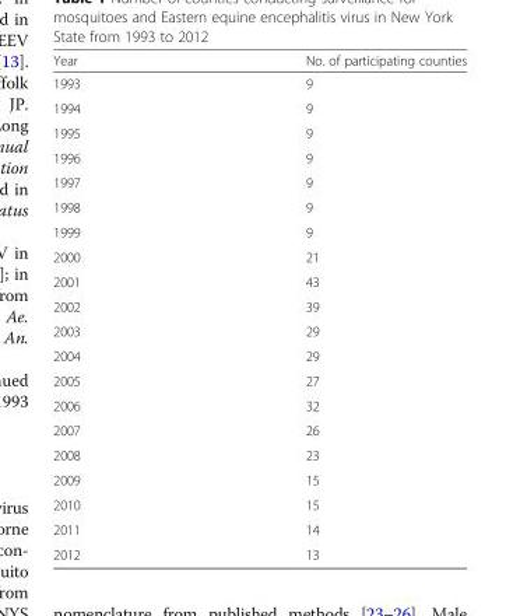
<table><thead><tr><td>Year</td><td>No. of participating counties</td></tr></thead><tbody><tr><td>1993</td><td>9</td></tr><tr><td>1994</td><td>9</td></tr><tr><td>1995</td><td>9</td></tr><tr><td>1996</td><td>9</td></tr><tr><td>1997</td><td>9</td></tr><tr><td>1998</td><td>9</td></tr><tr><td>1999</td><td>9</td></tr><tr><td>2000</td><td>21</td></tr><tr><td>2001</td><td>43</td></tr><tr><td>2002</td><td>39</td></tr><tr><td>2003</td><td>29</td></tr><tr><td>2004</td><td>29</td></tr><tr><td>2005</td><td>27</td></tr><tr><td>2006</td><td>32</td></tr><tr><td>2007</td><td>26</td></tr><tr><td>2008</td><td>23</td></tr><tr><td>2009</td><td>15</td></tr><tr><td>2010</td><td>15</td></tr><tr><td>2011</td><td>14</td></tr><tr><td>2012</td><td>13</td></tr></tbody></table>